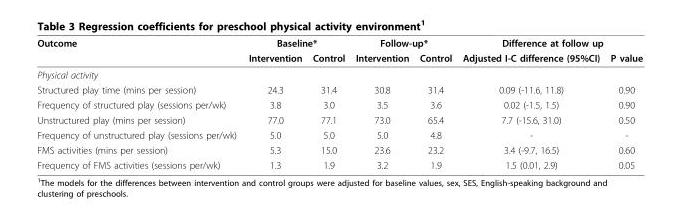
<table><thead><tr><td rowspan="2">Outcome</td><td colspan="2">Baseline*</td><td colspan="2">Follow-up*</td><td colspan="2">Difference at follow up</td></tr><tr><td>Intervention</td><td>Control</td><td>Intervention</td><td>Control</td><td>Adjusted I-C difference (95%CI)</td><td>P value</td></tr></thead><tbody><tr><td colspan="7">Physical activity</td></tr><tr><td>Structured play time (mins per session)</td><td>24.3</td><td>31.4</td><td>30.8</td><td>31.4</td><td>0.09 (-11.6, 11.8)</td><td>0.90</td></tr><tr><td>Frequency of structured play (sessions per/wk)</td><td>3.8</td><td>3.0</td><td>3.5</td><td>3.6</td><td>0.02 (-1.5, 1.5)</td><td>0.90</td></tr><tr><td>Unstructured play (mins per session)</td><td>77.0</td><td>77.1</td><td>73.0</td><td>65.4</td><td>7.7 (-15.6, 31.0)</td><td>0.50</td></tr><tr><td>Frequency of unstructured play (sessions per/wk)</td><td>5.0</td><td>5.0</td><td>5.0</td><td>4.8</td><td>-</td><td>-</td></tr><tr><td>FMS activities (mins per session)</td><td>5.3</td><td>15.0</td><td>23.6</td><td>23.2</td><td>3.4 (-9.7, 16.5)</td><td>0.60</td></tr><tr><td>Frequency of FMS activities (sessions per/wk)</td><td>1.3</td><td>1.9</td><td>3.2</td><td>1.9</td><td>1.5 (0.01, 2.9)</td><td>0.05</td></tr></tbody></table>